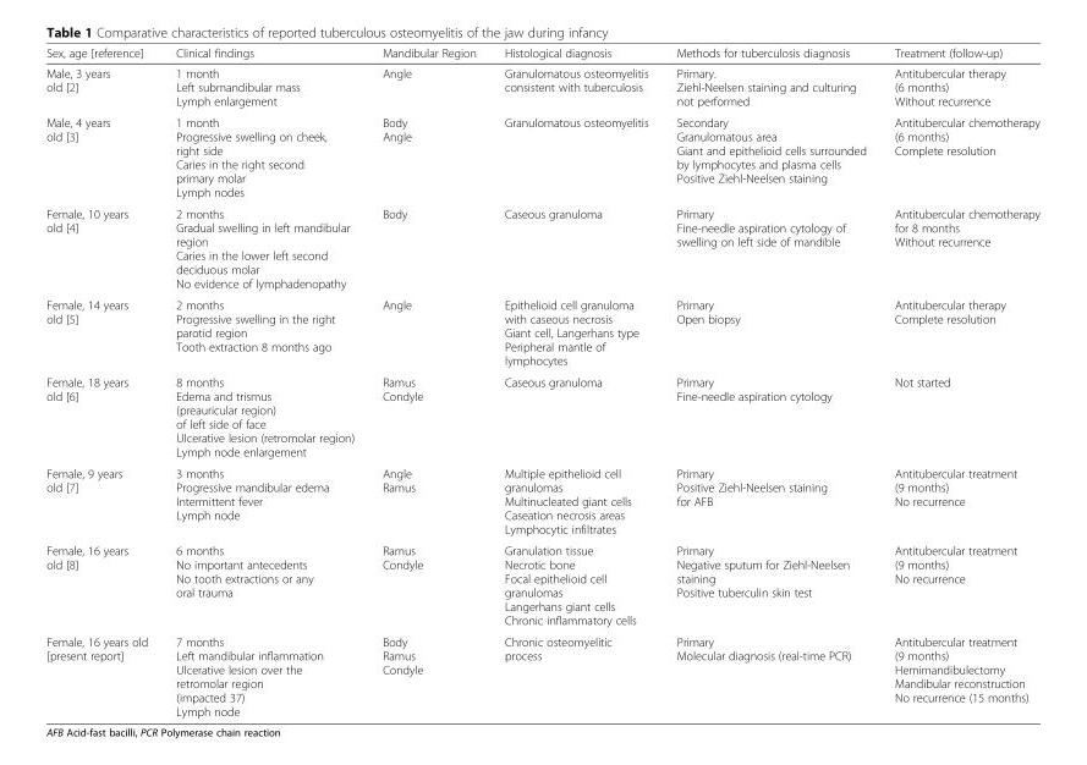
<table><thead><tr><td>Sex, age [reference]</td><td>Clinical findings</td><td>Mandibular Region</td><td>Histological diagnosis</td><td>Methods for tuberculosis diagnosis</td><td>Treatment (follow-up)</td></tr></thead><tbody><tr><td>Male, 3 years old [2]</td><td>1 month Left submandibular mass Lymph enlargement</td><td>Angle</td><td>Granulomatous osteomyelitis consistent with tuberculosis</td><td>Primary. Ziehl-Neelsen staining and culturing not performed</td><td>Antitubercular therapy (6 months) Without recurrence</td></tr><tr><td>Male, 4 years old [3]</td><td>1 month Progressive swelling on cheek, right side Caries in the right second primary molar Lymph nodes</td><td>Body Angle</td><td>Granulomatous osteomyelitis</td><td>Secondary Granulomatous area Giant and epithelioid cells surrounded by lymphocytes and plasma cells Positive Ziehl-Neelsen staining</td><td>Antitubercular chemotherapy (6 months) Complete resolution</td></tr><tr><td>Female, 10 years old [4]</td><td>2 months Gradual swelling in left mandibular region Caries in the lower left second deciduous molar No evidence of lymphadenopathy</td><td>Body</td><td>Caseous granuloma</td><td>Primary Fine-needle aspiration cytology of swelling on left side of mandible</td><td>Antitubercular chemotherapy for 8 months Without recurrence</td></tr><tr><td>Female, 14 years old [5]</td><td>2 months Progressive swelling in the right parotid region Tooth extraction 8 months ago</td><td>Angle</td><td>Epithelioid cell granuloma with caseous necrosis Giant cell, Langerhans type Peripheral mantle of lymphocytes</td><td>Primary Open biopsy</td><td>Antitubercular therapy Complete resolution</td></tr><tr><td>Female, 18 years old [6]</td><td>8 months Edema and trismus (preauricular region) of left side of face Ulcerative lesion (retromolar region) Lymph node enlargement</td><td>Ramus Condyle</td><td>Caseous granuloma</td><td>Primary Fine-needle aspiration cytology</td><td>Not started</td></tr><tr><td>Female, 9 years old [7]</td><td>3 months Progressive mandibular edema Intermittent fever Lymph node</td><td>Angle Ramus</td><td>Multiple epithelioid cell granulomas Multinucleated giant cells Caseation necrosis areas Lymphocytic infiltrates</td><td>Primary Positive Ziehl-Neelsen staining for AFB</td><td>Antitubercular treatment (9 months) No recurrence</td></tr><tr><td>Female, 16 years old [8]</td><td>6 months No important antecedents No tooth extractions or any oral trauma</td><td>Ramus Condyle</td><td>Granulation tissue Necrotic bone Focal epithelioid cell granulomas Langerhans giant cells Chronic inflammatory cells</td><td>Primary Negative sputum for Ziehl-Neelsen staining Positive tuberculin skin test</td><td>Antitubercular treatment (9 months) No recurrence</td></tr><tr><td>Female, 16 years old [present report]</td><td>7 months Left mandibular inflammation Ulcerative lesion over the retromolar region (impacted 37) Lymph node</td><td>Body Ramus Condyle</td><td>Chronic osteomyelitic process</td><td>Primary Molecular diagnosis (real-time PCR)</td><td>Antitubercular treatment (9 months) Hemimandibulectomy Mandibular reconstruction No recurrence (15 months)</td></tr></tbody></table>